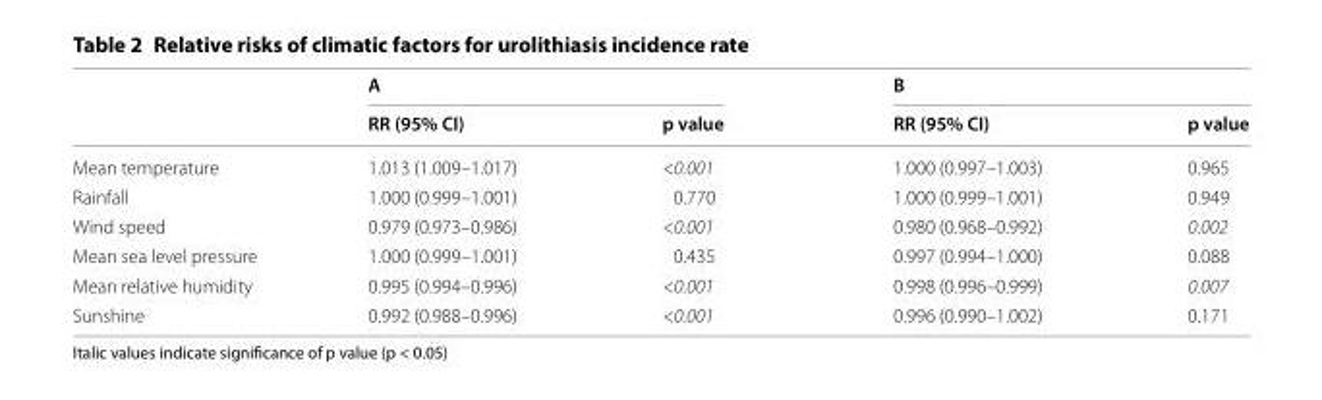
<table><thead><tr><td rowspan="2"></td><td colspan="2">A</td><td colspan="2">B</td></tr><tr><td>RR (95% CI)</td><td>p value</td><td>RR (95% CI)</td><td>p value</td></tr></thead><tbody><tr><td>Mean temperature</td><td>1.013 (1.009–1.017)</td><td>&lt;0.001</td><td>1.000 (0.997–1.003)</td><td>0.965</td></tr><tr><td>Rainfall</td><td>1.000 (0.999–1.001)</td><td>0.770</td><td>1.000 (0.999–1.001)</td><td>0.949</td></tr><tr><td>Wind speed</td><td>0.979 (0.973–0.986)</td><td>&lt;0.001</td><td>0.980 (0.968–0.992)</td><td>0.002</td></tr><tr><td>Mean sea level pressure</td><td>1.000 (0.999–1.001)</td><td>0.435</td><td>0.997 (0.994–1.000)</td><td>0.088</td></tr><tr><td>Mean relative humidity</td><td>0.995 (0.994–0.996)</td><td>&lt;0.001</td><td>0.998 (0.996–0.999)</td><td>0.007</td></tr><tr><td>Sunshine</td><td>0.992 (0.988–0.996)</td><td>&lt;0.001</td><td>0.996 (0.990–1.002)</td><td>0.171</td></tr></tbody></table>